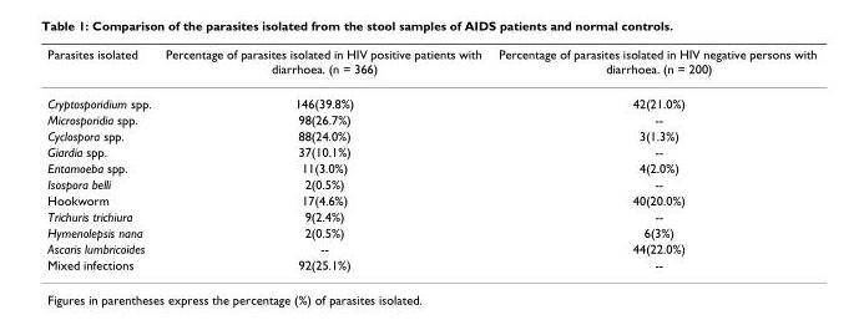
<table><thead><tr><td>Parasites isolated</td><td>Percentage of parasites isolated in HIV positive patients with diarrhoea. (n = 366)</td><td>Percentage of parasites isolated in HIV negative persons with diarrhoea. (n = 200)</td></tr></thead><tbody><tr><td>Cryptosporidium spp.</td><td>146(39.8%)</td><td>42(21.0%)</td></tr><tr><td>Microsporidia spp.</td><td>98(26.7%)</td><td>--</td></tr><tr><td>Cyclospora spp.</td><td>88(24.0%)</td><td>3(1.3%)</td></tr><tr><td>Giardia spp.</td><td>37(10.1%)</td><td>--</td></tr><tr><td>Entamoeba spp.</td><td>11(3.0%)</td><td>4(2.0%)</td></tr><tr><td>Isospora belli</td><td>2(0.5%)</td><td>--</td></tr><tr><td>Hookworm</td><td>17(4.6%)</td><td>40(20.0%)</td></tr><tr><td>Trichuris trichiura</td><td>9(2.4%)</td><td>--</td></tr><tr><td>Hymenolepsis nana</td><td>2(0.5%)</td><td>6(3%)</td></tr><tr><td>Ascaris lumbricoides</td><td>--</td><td>44(22.0%)</td></tr><tr><td>Mixed infections</td><td>92(25.1%)</td><td>--</td></tr></tbody></table>